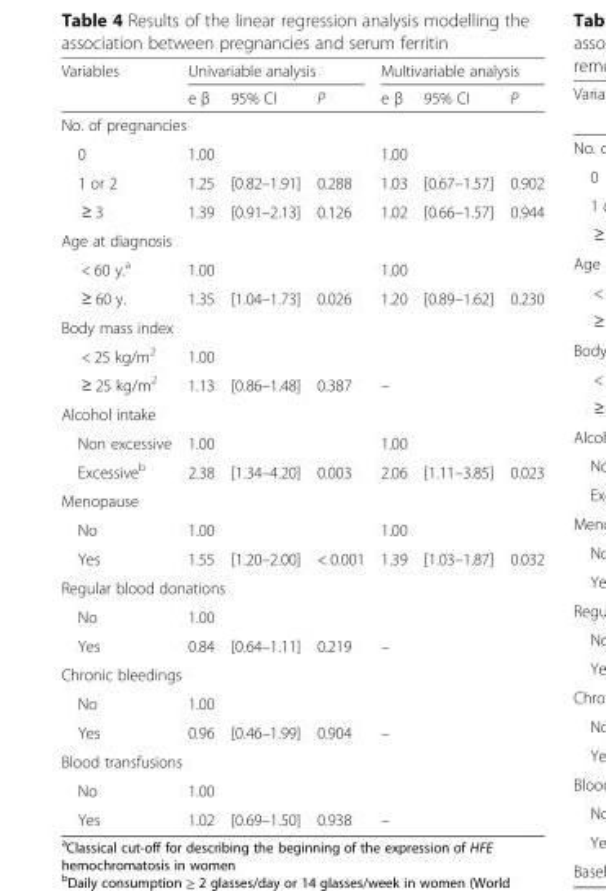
<table><thead><tr><td rowspan="2">Variables</td><td colspan="3">Univariable analysis</td><td colspan="3">Multivariable analysis</td></tr><tr><td>e β</td><td>95% CI</td><td>P</td><td>e β</td><td>95% CI</td><td>P</td></tr></thead><tbody><tr><td colspan="7">No. of pregnancies</td></tr><tr><td>0</td><td>1.00</td><td></td><td></td><td>1.00</td><td></td><td></td></tr><tr><td>1 or 2</td><td>1.25</td><td>[0.82–1.91]</td><td>0.288</td><td>1.03</td><td>[0.67–1.57]</td><td>0.902</td></tr><tr><td>≥ 3</td><td>1.39</td><td>[0.91–2.13]</td><td>0.126</td><td>1.02</td><td>[0.66–1.57]</td><td>0.944</td></tr><tr><td colspan="7">Age at diagnosis</td></tr><tr><td>&lt; 60 y.<sup>a</sup></td><td>1.00</td><td></td><td></td><td>1.00</td><td></td><td></td></tr><tr><td>≥ 60 y.</td><td>1.35</td><td>[1.04–1.73]</td><td>0.026</td><td>1.20</td><td>[0.89–1.62]</td><td>0.230</td></tr><tr><td colspan="7">Body mass index</td></tr><tr><td>&lt; 25 kg/m<sup>2</sup></td><td>1.00</td><td></td><td></td><td></td><td></td><td></td></tr><tr><td>≥ 25 kg/m<sup>2</sup></td><td>1.13</td><td>[0.86–1.48]</td><td>0.387</td><td>–</td><td></td><td></td></tr><tr><td colspan="7">Alcohol intake</td></tr><tr><td>Non excessive</td><td>1.00</td><td></td><td></td><td>1.00</td><td></td><td></td></tr><tr><td>Excessive<sup>b</sup></td><td>2.38</td><td>[1.34–4.20]</td><td>0.003</td><td>2.06</td><td>[1.11–3.85]</td><td>0.023</td></tr><tr><td colspan="7">Menopause</td></tr><tr><td>No</td><td>1.00</td><td></td><td></td><td>1.00</td><td></td><td></td></tr><tr><td>Yes</td><td>1.55</td><td>[1.20–2.00]</td><td>&lt; 0.001</td><td>1.39</td><td>[1.03–1.87]</td><td>0.032</td></tr><tr><td colspan="7">Regular blood donations</td></tr><tr><td>No</td><td>1.00</td><td></td><td></td><td></td><td></td><td></td></tr><tr><td>Yes</td><td>0.84</td><td>[0.64–1.11]</td><td>0.219</td><td>–</td><td></td><td></td></tr><tr><td colspan="7">Chronic bleedings</td></tr><tr><td>No</td><td>1.00</td><td></td><td></td><td></td><td></td><td></td></tr><tr><td>Yes</td><td>0.96</td><td>[0.46–1.99]</td><td>0.904</td><td>–</td><td></td><td></td></tr><tr><td colspan="7">Blood transfusions</td></tr><tr><td>No</td><td>1.00</td><td></td><td></td><td></td><td></td><td></td></tr><tr><td>Yes</td><td>1.02</td><td>[0.69–1.50]</td><td>0.938</td><td>–</td><td></td><td></td></tr></tbody></table>